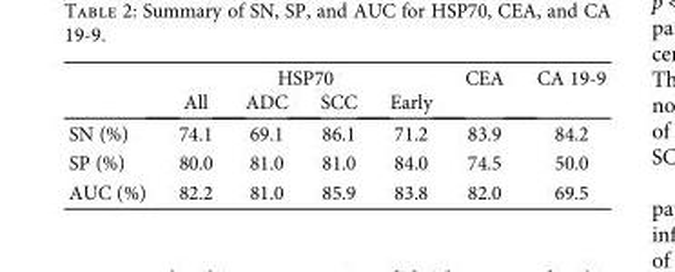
<table><thead><tr><td rowspan="2"></td><td colspan="4">HSP70</td><td rowspan="2">CEA</td><td rowspan="2">CA 19-9</td></tr><tr><td>All</td><td>ADC</td><td>SCC</td><td>Early</td></tr></thead><tbody><tr><td>SN (%)</td><td>74.1</td><td>69.1</td><td>86.1</td><td>71.2</td><td>83.9</td><td>84.2</td></tr><tr><td>SP (%)</td><td>80.0</td><td>81.0</td><td>81.0</td><td>84.0</td><td>74.5</td><td>50.0</td></tr><tr><td>AUC (%)</td><td>82.2</td><td>81.0</td><td>85.9</td><td>83.8</td><td>82.0</td><td>69.5</td></tr></tbody></table>